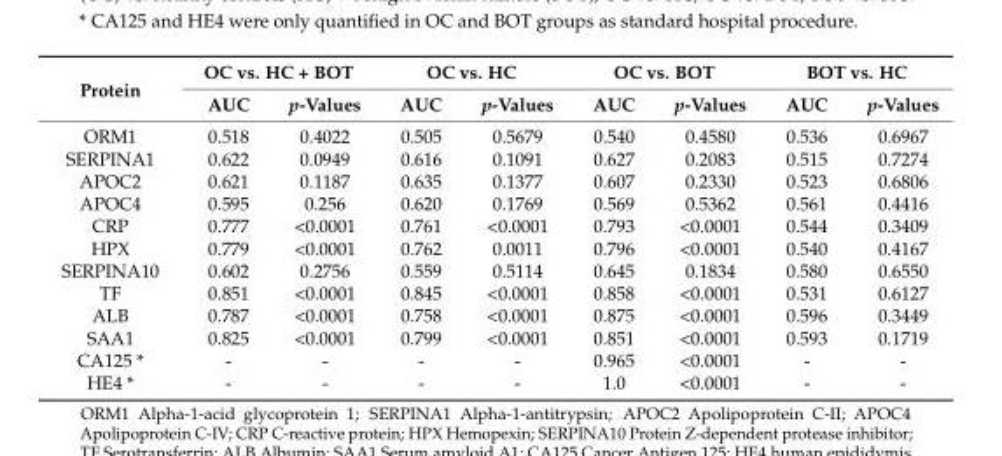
<table><thead><tr><td rowspan="2">Protein</td><td colspan="2">OC vs. HC + BOT</td><td colspan="2">OC vs. HC</td><td colspan="2">OC vs. BOT</td><td colspan="2">BOT vs. HC</td></tr><tr><td>AUC</td><td>p-Values</td><td>AUC</td><td>p-Values</td><td>AUC</td><td>p-Values</td><td>AUC</td><td>p-Values</td></tr></thead><tbody><tr><td>ORM1</td><td>0.518</td><td>0.4022</td><td>0.505</td><td>0.5679</td><td>0.540</td><td>0.4580</td><td>0.536</td><td>0.6967</td></tr><tr><td>SERPINA1</td><td>0.622</td><td>0.0949</td><td>0.616</td><td>0.1091</td><td>0.627</td><td>0.2083</td><td>0.515</td><td>0.7274</td></tr><tr><td>APOC2</td><td>0.621</td><td>0.1187</td><td>0.635</td><td>0.1377</td><td>0.607</td><td>0.2330</td><td>0.523</td><td>0.6806</td></tr><tr><td>APOC4</td><td>0.595</td><td>0.256</td><td>0.620</td><td>0.1769</td><td>0.569</td><td>0.5362</td><td>0.561</td><td>0.4416</td></tr><tr><td>CRP</td><td>0.777</td><td>&lt;0.0001</td><td>0.761</td><td>&lt;0.0001</td><td>0.793</td><td>&lt;0.0001</td><td>0.544</td><td>0.3409</td></tr><tr><td>HPX</td><td>0.779</td><td>&lt;0.0001</td><td>0.762</td><td>0.0011</td><td>0.796</td><td>&lt;0.0001</td><td>0.540</td><td>0.4167</td></tr><tr><td>SERPINA10</td><td>0.602</td><td>0.2756</td><td>0.559</td><td>0.5114</td><td>0.645</td><td>0.1834</td><td>0.580</td><td>0.6550</td></tr><tr><td>TF</td><td>0.851</td><td>&lt;0.0001</td><td>0.845</td><td>&lt;0.0001</td><td>0.858</td><td>&lt;0.0001</td><td>0.531</td><td>0.6127</td></tr><tr><td>ALB</td><td>0.787</td><td>&lt;0.0001</td><td>0.758</td><td>&lt;0.0001</td><td>0.875</td><td>&lt;0.0001</td><td>0.596</td><td>0.3449</td></tr><tr><td>SAA1</td><td>0.825</td><td>&lt;0.0001</td><td>0.799</td><td>&lt;0.0001</td><td>0.851</td><td>&lt;0.0001</td><td>0.593</td><td>0.1719</td></tr><tr><td>CA125 *</td><td>-</td><td>-</td><td>-</td><td>-</td><td>0.965</td><td>&lt;0.0001</td><td>-</td><td>-</td></tr><tr><td>HE4 *</td><td>-</td><td>-</td><td>-</td><td>-</td><td>1.0</td><td>&lt;0.0001</td><td>-</td><td>-</td></tr></tbody></table>